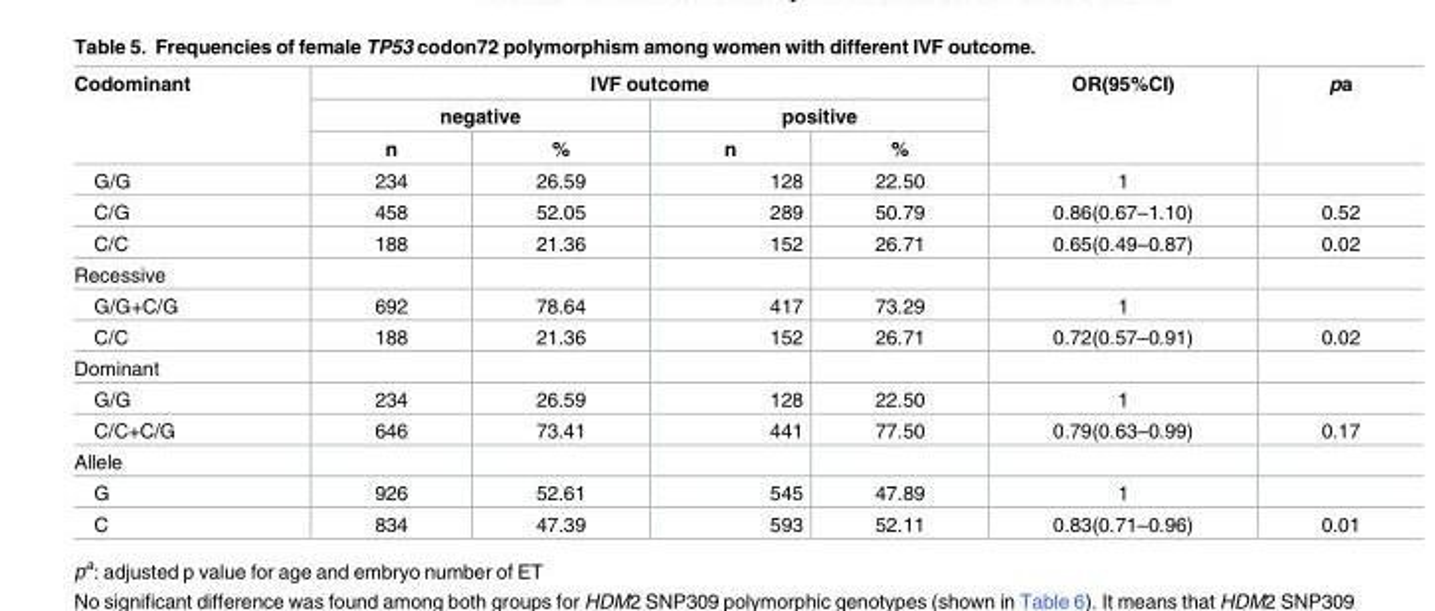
<table><thead><tr><td rowspan="3">Codominant</td><td colspan="4">IVF outcome</td><td rowspan="3">OR(95%CI)</td><td rowspan="3">pa</td></tr><tr><td colspan="2">negative</td><td colspan="2">positive</td></tr><tr><td>n</td><td>%</td><td>n</td><td>%</td></tr></thead><tbody><tr><td>G/G</td><td>234</td><td>26.59</td><td>128</td><td>22.50</td><td>1</td><td></td></tr><tr><td>C/G</td><td>458</td><td>52.05</td><td>289</td><td>50.79</td><td>0.86(0.67–1.10)</td><td>0.52</td></tr><tr><td>C/C</td><td>188</td><td>21.36</td><td>152</td><td>26.71</td><td>0.65(0.49–0.87)</td><td>0.02</td></tr><tr><td colspan="7">Recessive</td></tr><tr><td>G/G+C/G</td><td>692</td><td>78.64</td><td>417</td><td>73.29</td><td>1</td><td></td></tr><tr><td>C/C</td><td>188</td><td>21.36</td><td>152</td><td>26.71</td><td>0.72(0.57–0.91)</td><td>0.02</td></tr><tr><td colspan="7">Dominant</td></tr><tr><td>G/G</td><td>234</td><td>26.59</td><td>128</td><td>22.50</td><td>1</td><td></td></tr><tr><td>C/C+C/G</td><td>646</td><td>73.41</td><td>441</td><td>77.50</td><td>0.79(0.63–0.99)</td><td>0.17</td></tr><tr><td colspan="7">Allele</td></tr><tr><td>G</td><td>926</td><td>52.61</td><td>545</td><td>47.89</td><td>1</td><td></td></tr><tr><td>C</td><td>834</td><td>47.39</td><td>593</td><td>52.11</td><td>0.83(0.71–0.96)</td><td>0.01</td></tr></tbody></table>